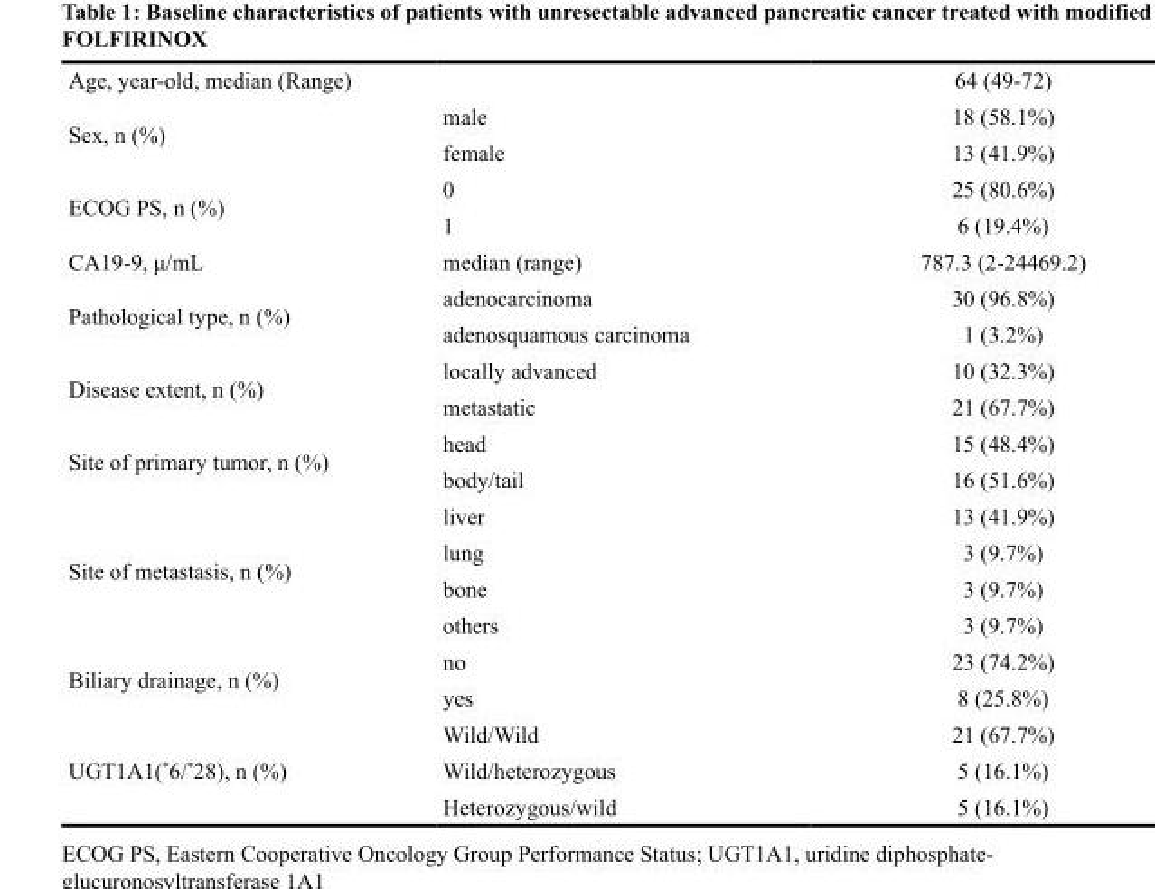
<table><tbody><tr><td colspan="2">Age, year-old, median (Range)</td><td>64 (49-72)</td></tr><tr><td rowspan="2">Sex, n (%)</td><td>male</td><td>18 (58.1%)</td></tr><tr><td>female</td><td>13 (41.9%)</td></tr><tr><td rowspan="2">ECOG PS, n (%)</td><td>0</td><td>25 (80.6%)</td></tr><tr><td>1</td><td>6 (19.4%)</td></tr><tr><td>CA19-9, μ/mL</td><td>median (range)</td><td>787.3 (2-24469.2)</td></tr><tr><td rowspan="2">Pathological type, n (%)</td><td>adenocarcinoma</td><td>30 (96.8%)</td></tr><tr><td>adenosquamous carcinoma</td><td>1 (3.2%)</td></tr><tr><td rowspan="2">Disease extent, n (%)</td><td>locally advanced</td><td>10 (32.3%)</td></tr><tr><td>metastatic</td><td>21 (67.7%)</td></tr><tr><td rowspan="2">Site of primary tumor, n (%)</td><td>head</td><td>15 (48.4%)</td></tr><tr><td>body/tail</td><td>16 (51.6%)</td></tr><tr><td rowspan="4">Site of metastasis, n (%)</td><td>liver</td><td>13 (41.9%)</td></tr><tr><td>lung</td><td>3 (9.7%)</td></tr><tr><td>bone</td><td>3 (9.7%)</td></tr><tr><td>others</td><td>3 (9.7%)</td></tr><tr><td rowspan="2">Biliary drainage, n (%)</td><td>no</td><td>23 (74.2%)</td></tr><tr><td>yes</td><td>8 (25.8%)</td></tr><tr><td rowspan="3">UGT1A1(*6/*28), n (%)</td><td>Wild/Wild</td><td>21 (67.7%)</td></tr><tr><td>Wild/heterozygous</td><td>5 (16.1%)</td></tr><tr><td>Heterozygous/wild</td><td>5 (16.1%)</td></tr></tbody></table>